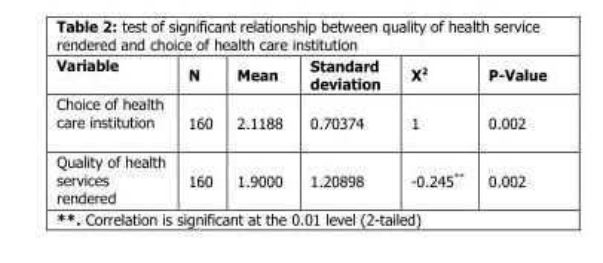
<table><thead><tr><td>Variable</td><td>N</td><td>Mean</td><td>Standard deviation</td><td>X<sup>2</sup></td><td>P-Value</td></tr></thead><tbody><tr><td>Choice of health care institution</td><td>160</td><td>2.1188</td><td>0.70374</td><td>1</td><td>0.002</td></tr><tr><td>Quality of health services rendered</td><td>160</td><td>1.9000</td><td>1.20898</td><td>-0.245**</td><td>0.002</td></tr></tbody></table>